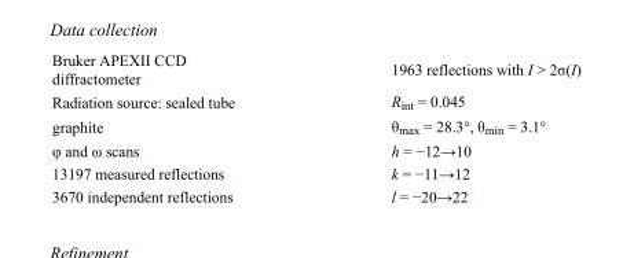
<table><tbody><tr><td>Bruker APEXII CCD diffractometer</td><td>1963 reflections with I &gt; 2σ(I)</td></tr><tr><td>Radiation source: sealed tube</td><td>R<sub>int</sub> = 0.045</td></tr><tr><td>graphite</td><td>θ<sub>max</sub> = 28.3°, θ<sub>min</sub> = 3.1°</td></tr><tr><td>φ and ω scans</td><td>h = −12→10</td></tr><tr><td>13197 measured reflections</td><td>k = −11→12</td></tr><tr><td>3670 independent reflections</td><td>l = −20→22</td></tr></tbody></table>